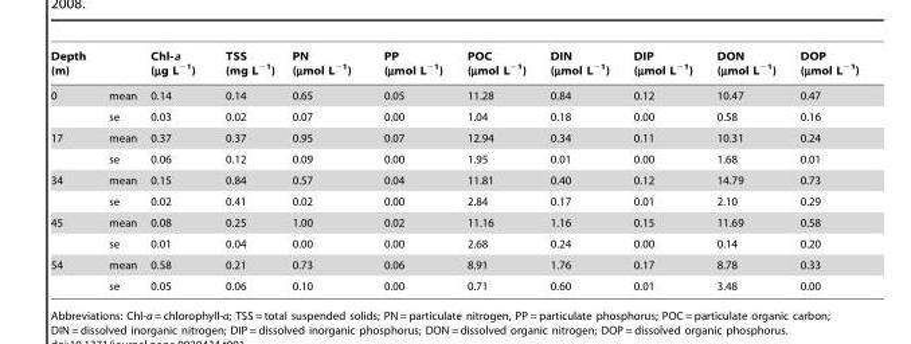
<table><thead><tr><td>Depth (m)</td><td></td><td>Chl-a (µg L<sup>−1</sup>)</td><td>TSS (mg L<sup>−1</sup>)</td><td>PN (µmol L<sup>−1</sup>)</td><td>PP (µmol L<sup>−1</sup>)</td><td>POC (µmol L<sup>−1</sup>)</td><td>DIN (µmol L<sup>−1</sup>)</td><td>DIP (µmol L<sup>−1</sup>)</td><td>DON (µmol L<sup>−1</sup>)</td><td>DOP (µmol L<sup>−1</sup>)</td></tr></thead><tbody><tr><td rowspan="2">0</td><td>mean</td><td>0.14</td><td>0.14</td><td>0.65</td><td>0.05</td><td>11.28</td><td>0.84</td><td>0.12</td><td>10.47</td><td>0.47</td></tr><tr><td>se</td><td>0.03</td><td>0.02</td><td>0.07</td><td>0.00</td><td>1.04</td><td>0.18</td><td>0.00</td><td>0.58</td><td>0.16</td></tr><tr><td rowspan="2">17</td><td>mean</td><td>0.37</td><td>0.37</td><td>0.95</td><td>0.07</td><td>12.94</td><td>0.34</td><td>0.11</td><td>10.31</td><td>0.24</td></tr><tr><td>se</td><td>0.06</td><td>0.12</td><td>0.09</td><td>0.00</td><td>1.95</td><td>0.01</td><td>0.00</td><td>1.68</td><td>0.01</td></tr><tr><td rowspan="2">34</td><td>mean</td><td>0.15</td><td>0.84</td><td>0.57</td><td>0.04</td><td>11.81</td><td>0.40</td><td>0.12</td><td>14.79</td><td>0.73</td></tr><tr><td>se</td><td>0.02</td><td>0.41</td><td>0.02</td><td>0.00</td><td>2.84</td><td>0.17</td><td>0.01</td><td>2.10</td><td>0.29</td></tr><tr><td rowspan="2">45</td><td>mean</td><td>0.08</td><td>0.25</td><td>1.00</td><td>0.02</td><td>11.16</td><td>1.16</td><td>0.15</td><td>11.69</td><td>0.58</td></tr><tr><td>se</td><td>0.01</td><td>0.04</td><td>0.00</td><td>0.00</td><td>2.68</td><td>0.24</td><td>0.00</td><td>0.14</td><td>0.20</td></tr><tr><td rowspan="2">54</td><td>mean</td><td>0.58</td><td>0.21</td><td>0.73</td><td>0.06</td><td>8.91</td><td>1.76</td><td>0.17</td><td>8.78</td><td>0.33</td></tr><tr><td>se</td><td>0.05</td><td>0.06</td><td>0.10</td><td>0.00</td><td>0.71</td><td>0.60</td><td>0.01</td><td>3.48</td><td>0.00</td></tr></tbody></table>